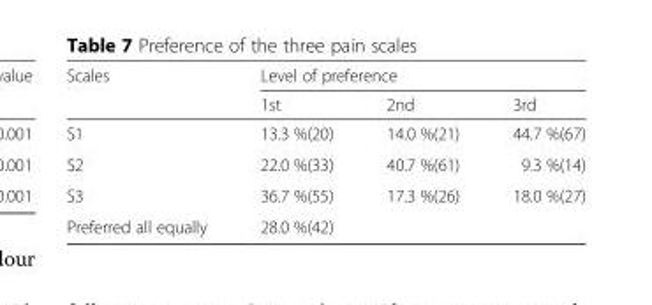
<table><thead><tr><td rowspan="2">Scales</td><td colspan="3">Level of preference</td></tr><tr><td>1st</td><td>2nd</td><td>3rd</td></tr></thead><tbody><tr><td>S1</td><td>13.3 %(20)</td><td>14.0 %(21)</td><td>44.7 %(67)</td></tr><tr><td>S2</td><td>22.0 %(33)</td><td>40.7 %(61)</td><td>9.3 %(14)</td></tr><tr><td>S3</td><td>36.7 %(55)</td><td>17.3 %(26)</td><td>18.0 %(27)</td></tr><tr><td>Preferred all equally</td><td colspan="2">28.0 %(42)</td><td></td></tr></tbody></table>